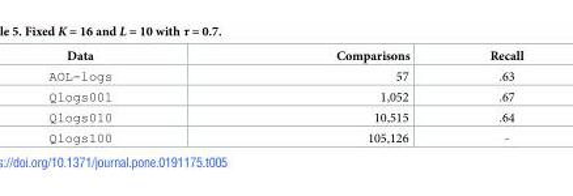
<table><thead><tr><td>Data</td><td>Comparisons</td><td>Recall</td></tr></thead><tbody><tr><td>AOL-logs</td><td>57</td><td>.63</td></tr><tr><td>Qlogs001</td><td>1,052</td><td>.67</td></tr><tr><td>Qlogs010</td><td>10,515</td><td>.64</td></tr><tr><td>Qlogs100</td><td>105,126</td><td>-</td></tr></tbody></table>